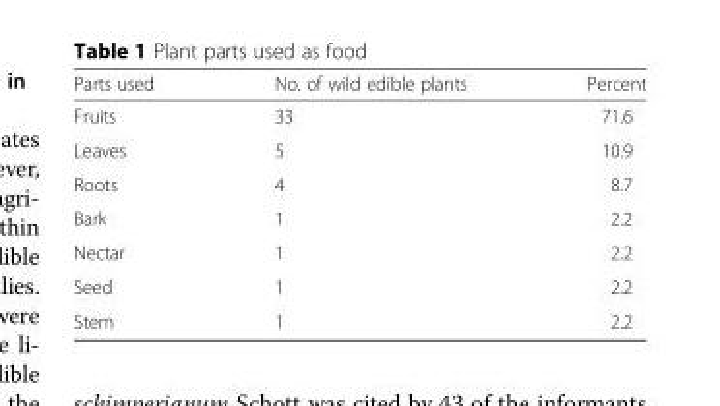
<table><thead><tr><td>Parts used</td><td>No. of wild edible plants</td><td>Percent</td></tr></thead><tbody><tr><td>Fruits</td><td>33</td><td>71.6</td></tr><tr><td>Leaves</td><td>5</td><td>10.9</td></tr><tr><td>Roots</td><td>4</td><td>8.7</td></tr><tr><td>Bark</td><td>1</td><td>2.2</td></tr><tr><td>Nectar</td><td>1</td><td>2.2</td></tr><tr><td>Seed</td><td>1</td><td>2.2</td></tr><tr><td>Stem</td><td>1</td><td>2.2</td></tr></tbody></table>